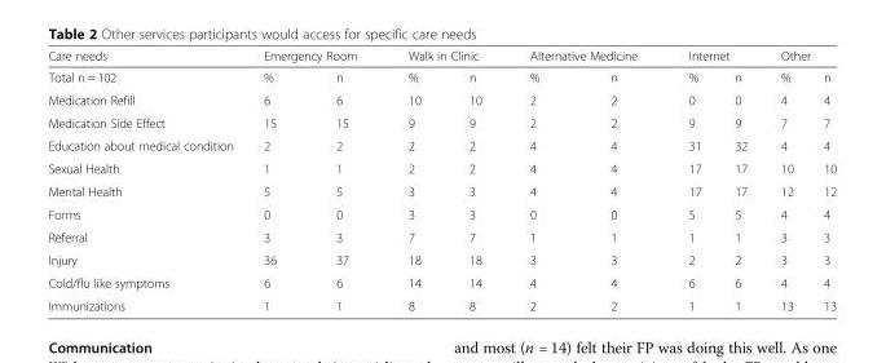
<table><thead><tr><td rowspan="2">Care needs Total n = 102</td><td colspan="2">Emergency Room</td><td colspan="2">Walk in Clinic</td><td colspan="2">Alternative Medicine</td><td colspan="2">Internet</td><td colspan="2">Other</td></tr><tr><td>%</td><td>n</td><td>%</td><td>n</td><td>%</td><td>n</td><td>%</td><td>n</td><td>%</td><td>n</td></tr></thead><tbody><tr><td>Medication Refill</td><td>6</td><td>6</td><td>10</td><td>10</td><td>2</td><td>2</td><td>0</td><td>0</td><td>4</td><td>4</td></tr><tr><td>Medication Side Effect</td><td>15</td><td>15</td><td>9</td><td>9</td><td>2</td><td>2</td><td>9</td><td>9</td><td>7</td><td>7</td></tr><tr><td>Education about medical condition</td><td>2</td><td>2</td><td>2</td><td>2</td><td>4</td><td>4</td><td>31</td><td>32</td><td>4</td><td>4</td></tr><tr><td>Sexual Health</td><td>1</td><td>1</td><td>2</td><td>2</td><td>4</td><td>4</td><td>17</td><td>17</td><td>10</td><td>10</td></tr><tr><td>Mental Health</td><td>5</td><td>5</td><td>3</td><td>3</td><td>4</td><td>4</td><td>17</td><td>17</td><td>12</td><td>12</td></tr><tr><td>Forms</td><td>0</td><td>0</td><td>3</td><td>3</td><td>0</td><td>0</td><td>5</td><td>5</td><td>4</td><td>4</td></tr><tr><td>Referral</td><td>3</td><td>3</td><td>7</td><td>7</td><td>1</td><td>1</td><td>1</td><td>1</td><td>3</td><td>3</td></tr><tr><td>Injury</td><td>36</td><td>37</td><td>18</td><td>18</td><td>3</td><td>3</td><td>2</td><td>2</td><td>3</td><td>3</td></tr><tr><td>Cold/flu like symptoms</td><td>6</td><td>6</td><td>14</td><td>14</td><td>4</td><td>4</td><td>6</td><td>6</td><td>4</td><td>4</td></tr><tr><td>Immunizations</td><td>1</td><td>1</td><td>8</td><td>8</td><td>2</td><td>2</td><td>1</td><td>1</td><td>13</td><td>13</td></tr></tbody></table>